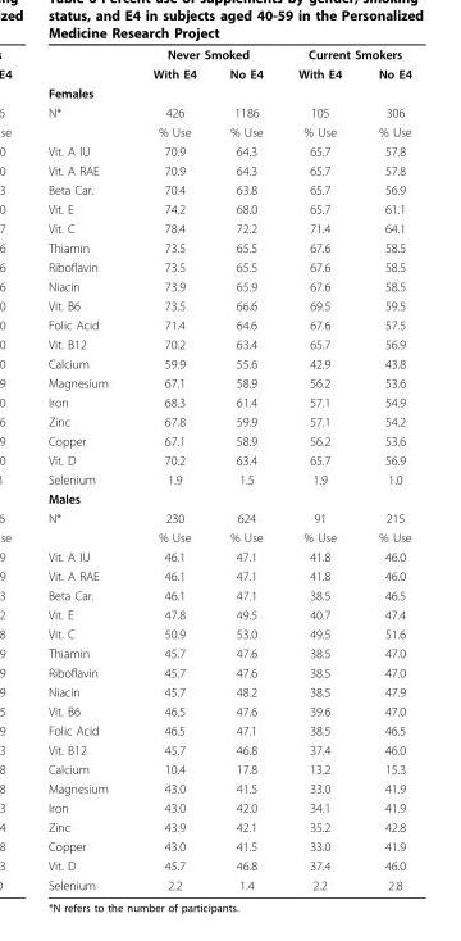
<table><thead><tr><td rowspan="2"></td><td colspan="2">Never Smoked</td><td colspan="2">Current Smokers</td></tr><tr><td>With E4</td><td>No E4</td><td>With E4</td><td>No E4</td></tr></thead><tbody><tr><td colspan="5">Females</td></tr><tr><td rowspan="2">N*</td><td>426</td><td>1186</td><td>105</td><td>306</td></tr><tr><td>% Use</td><td>% Use</td><td>% Use</td><td>% Use</td></tr><tr><td>Vit. A IU</td><td>70.9</td><td>64.3</td><td>65.7</td><td>57.8</td></tr><tr><td>Vit. A RAE</td><td>70.9</td><td>64.3</td><td>65.7</td><td>57.8</td></tr><tr><td>Beta Car.</td><td>70.4</td><td>63.8</td><td>65.7</td><td>56.9</td></tr><tr><td>Vit. E</td><td>74.2</td><td>68.0</td><td>65.7</td><td>61.1</td></tr><tr><td>Vit. C</td><td>78.4</td><td>72.2</td><td>71.4</td><td>64.1</td></tr><tr><td>Thiamin</td><td>73.5</td><td>65.5</td><td>67.6</td><td>58.5</td></tr><tr><td>Riboflavin</td><td>73.5</td><td>65.5</td><td>67.6</td><td>58.5</td></tr><tr><td>Niacin</td><td>73.9</td><td>65.9</td><td>67.6</td><td>58.5</td></tr><tr><td>Vit. B6</td><td>73.5</td><td>66.6</td><td>69.5</td><td>59.5</td></tr><tr><td>Folic Acid</td><td>71.4</td><td>64.6</td><td>67.6</td><td>57.5</td></tr><tr><td>Vit. B12</td><td>70.2</td><td>63.4</td><td>65.7</td><td>56.9</td></tr><tr><td>Calcium</td><td>59.9</td><td>55.6</td><td>42.9</td><td>43.8</td></tr><tr><td>Magnesium</td><td>67.1</td><td>58.9</td><td>56.2</td><td>53.6</td></tr><tr><td>Iron</td><td>68.3</td><td>61.4</td><td>57.1</td><td>54.9</td></tr><tr><td>Zinc</td><td>67.8</td><td>59.9</td><td>57.1</td><td>54.2</td></tr><tr><td>Copper</td><td>67.1</td><td>58.9</td><td>56.2</td><td>53.6</td></tr><tr><td>Vit. D</td><td>70.2</td><td>63.4</td><td>65.7</td><td>56.9</td></tr><tr><td>Selenium</td><td>1.9</td><td>1.5</td><td>1.9</td><td>1.0</td></tr><tr><td colspan="5">Males</td></tr><tr><td rowspan="2">N*</td><td>230</td><td>624</td><td>91</td><td>215</td></tr><tr><td>% Use</td><td>% Use</td><td>% Use</td><td>% Use</td></tr><tr><td>Vit. A IU</td><td>46.1</td><td>47.1</td><td>41.8</td><td>46.0</td></tr><tr><td>Vit. A RAE</td><td>46.1</td><td>47.1</td><td>41.8</td><td>46.0</td></tr><tr><td>Beta Car.</td><td>46.1</td><td>47.1</td><td>38.5</td><td>46.5</td></tr><tr><td>Vit. E</td><td>47.8</td><td>49.5</td><td>40.7</td><td>47.4</td></tr><tr><td>Vit. C</td><td>50.9</td><td>53.0</td><td>49.5</td><td>51.6</td></tr><tr><td>Thiamin</td><td>45.7</td><td>47.6</td><td>38.5</td><td>47.0</td></tr><tr><td>Riboflavin</td><td>45.7</td><td>47.6</td><td>38.5</td><td>47.0</td></tr><tr><td>Niacin</td><td>45.7</td><td>48.2</td><td>38.5</td><td>47.9</td></tr><tr><td>Vit. B6</td><td>46.5</td><td>47.6</td><td>39.6</td><td>47.0</td></tr><tr><td>Folic Acid</td><td>46.5</td><td>47.1</td><td>38.5</td><td>46.5</td></tr><tr><td>Vit. B12</td><td>45.7</td><td>46.8</td><td>37.4</td><td>46.0</td></tr><tr><td>Calcium</td><td>10.4</td><td>17.8</td><td>13.2</td><td>15.3</td></tr><tr><td>Magnesium</td><td>43.0</td><td>41.5</td><td>33.0</td><td>41.9</td></tr><tr><td>Iron</td><td>43.0</td><td>42.0</td><td>34.1</td><td>41.9</td></tr><tr><td>Zinc</td><td>43.9</td><td>42.1</td><td>35.2</td><td>42.8</td></tr><tr><td>Copper</td><td>43.0</td><td>41.5</td><td>33.0</td><td>41.9</td></tr><tr><td>Vit. D</td><td>45.7</td><td>46.8</td><td>37.4</td><td>46.0</td></tr><tr><td>Selenium</td><td>2.2</td><td>1.4</td><td>2.2</td><td>2.8</td></tr></tbody></table>